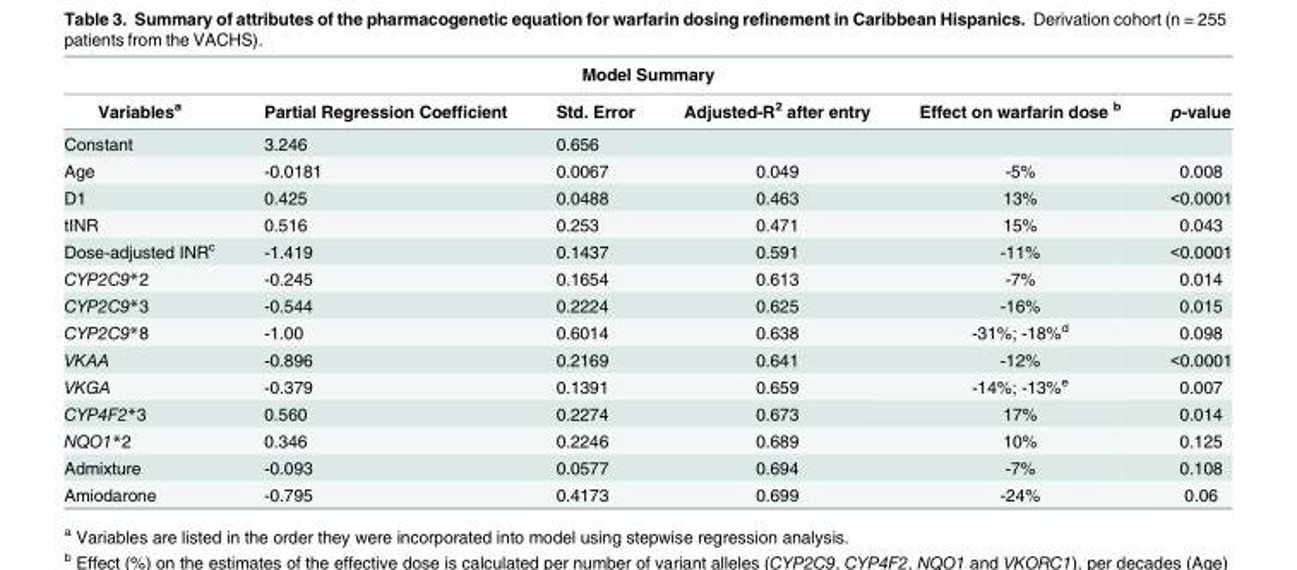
<table><thead><tr><td colspan="6">Model Summary</td></tr><tr><td>Variables<sup>a</sup></td><td>Partial Regression Coefficient</td><td>Std. Error</td><td>Adjusted-R<sup>2</sup> after entry</td><td>Effect on warfarin dose <sup>b</sup></td><td>p-value</td></tr></thead><tbody><tr><td>Constant</td><td>3.246</td><td>0.656</td><td></td><td></td><td></td></tr><tr><td>Age</td><td>-0.0181</td><td>0.0067</td><td>0.049</td><td>-5%</td><td>0.008</td></tr><tr><td>D1</td><td>0.425</td><td>0.0488</td><td>0.463</td><td>13%</td><td>&lt;0.0001</td></tr><tr><td>tINR</td><td>0.516</td><td>0.253</td><td>0.471</td><td>15%</td><td>0.043</td></tr><tr><td>Dose-adjusted INR<sup>c</sup></td><td>-1.419</td><td>0.1437</td><td>0.591</td><td>-11%</td><td>&lt;0.0001</td></tr><tr><td>CYP2C9*2</td><td>-0.245</td><td>0.1654</td><td>0.613</td><td>-7%</td><td>0.014</td></tr><tr><td>CYP2C9*3</td><td>-0.544</td><td>0.2224</td><td>0.625</td><td>-16%</td><td>0.015</td></tr><tr><td>CYP2C9*8</td><td>-1.00</td><td>0.6014</td><td>0.638</td><td>-31%; -18%<sup>d</sup></td><td>0.098</td></tr><tr><td>VKAA</td><td>-0.896</td><td>0.2169</td><td>0.641</td><td>-12%</td><td>&lt;0.0001</td></tr><tr><td>VKGA</td><td>-0.379</td><td>0.1391</td><td>0.659</td><td>-14%; -13%<sup>e</sup></td><td>0.007</td></tr><tr><td>CYP4F2*3</td><td>0.560</td><td>0.2274</td><td>0.673</td><td>17%</td><td>0.014</td></tr><tr><td>NQO1*2</td><td>0.346</td><td>0.2246</td><td>0.689</td><td>10%</td><td>0.125</td></tr><tr><td>Admixture</td><td>-0.093</td><td>0.0577</td><td>0.694</td><td>-7%</td><td>0.108</td></tr><tr><td>Amiodarone</td><td>-0.795</td><td>0.4173</td><td>0.699</td><td>-24%</td><td>0.06</td></tr></tbody></table>